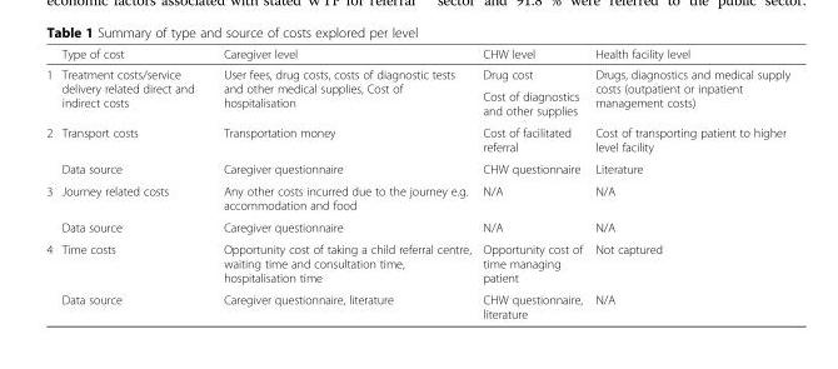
<table><thead><tr><td></td><td>Type of cost</td><td>Caregiver level</td><td>CHW level</td><td>Health facility level</td></tr></thead><tbody><tr><td rowspan="2">1</td><td rowspan="2">Treatment costs/service delivery related direct and indirect costs</td><td rowspan="2">User fees, drug costs, costs of diagnostic tests and other medical supplies, Cost of hospitalisation</td><td>Drug cost</td><td rowspan="2">Drugs, diagnostics and medical supply costs (outpatient or inpatient management costs)</td></tr><tr><td>Cost of diagnostics and other supplies</td></tr><tr><td rowspan="2">2</td><td>Transport costs</td><td>Transportation money</td><td>Cost of facilitated referral</td><td>Cost of transporting patient to higher level facility</td></tr><tr><td>Data source</td><td>Caregiver questionnaire</td><td>CHW questionnaire</td><td>Literature</td></tr><tr><td rowspan="2">3</td><td>Journey related costs</td><td>Any other costs incurred due to the journey e.g. accommodation and food</td><td>N/A</td><td>N/A</td></tr><tr><td>Data source</td><td>Caregiver questionnaire</td><td>N/A</td><td>N/A</td></tr><tr><td rowspan="2">4</td><td>Time costs</td><td>Opportunity cost of taking a child referral centre, waiting time and consultation time, hospitalisation time</td><td>Opportunity cost of time managing patient</td><td>Not captured</td></tr><tr><td>Data source</td><td>Caregiver questionnaire, literature</td><td>CHW questionnaire, literature</td><td>N/A</td></tr></tbody></table>